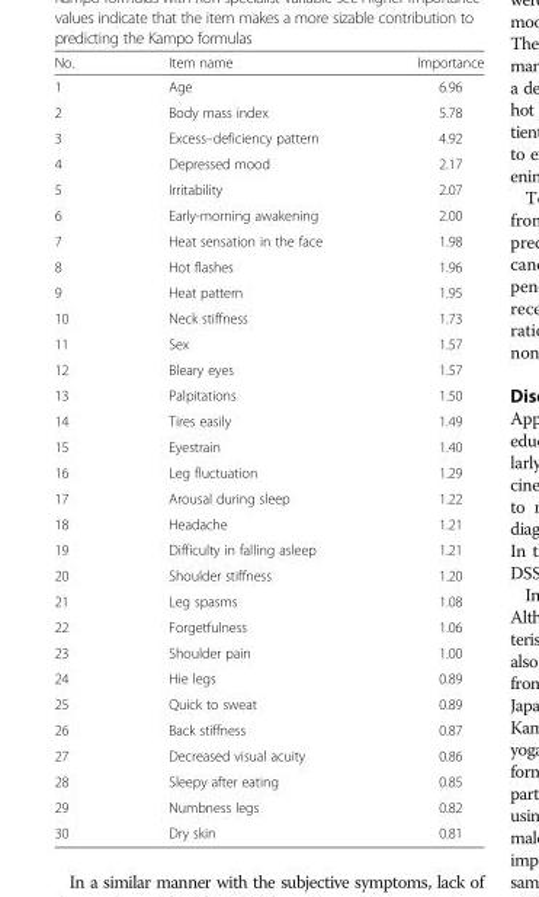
<table><thead><tr><td>No.</td><td>Item name</td><td>Importance</td></tr></thead><tbody><tr><td>1</td><td>Age</td><td>6.96</td></tr><tr><td>2</td><td>Body mass index</td><td>5.78</td></tr><tr><td>3</td><td>Excess–deficiency pattern</td><td>4.92</td></tr><tr><td>4</td><td>Depressed mood</td><td>2.17</td></tr><tr><td>5</td><td>Irritability</td><td>2.07</td></tr><tr><td>6</td><td>Early-morning awakening</td><td>2.00</td></tr><tr><td>7</td><td>Heat sensation in the face</td><td>1.98</td></tr><tr><td>8</td><td>Hot flashes</td><td>1.96</td></tr><tr><td>9</td><td>Heat pattern</td><td>1.95</td></tr><tr><td>10</td><td>Neck stiffness</td><td>1.73</td></tr><tr><td>11</td><td>Sex</td><td>1.57</td></tr><tr><td>12</td><td>Bleary eyes</td><td>1.57</td></tr><tr><td>13</td><td>Palpitations</td><td>1.50</td></tr><tr><td>14</td><td>Tires easily</td><td>1.49</td></tr><tr><td>15</td><td>Eyestrain</td><td>1.40</td></tr><tr><td>16</td><td>Leg fluctuation</td><td>1.29</td></tr><tr><td>17</td><td>Arousal during sleep</td><td>1.22</td></tr><tr><td>18</td><td>Headache</td><td>1.21</td></tr><tr><td>19</td><td>Difficulty in falling asleep</td><td>1.21</td></tr><tr><td>20</td><td>Shoulder stiffness</td><td>1.20</td></tr><tr><td>21</td><td>Leg spasms</td><td>1.08</td></tr><tr><td>22</td><td>Forgetfulness</td><td>1.06</td></tr><tr><td>23</td><td>Shoulder pain</td><td>1.00</td></tr><tr><td>24</td><td>Hie legs</td><td>0.89</td></tr><tr><td>25</td><td>Quick to sweat</td><td>0.89</td></tr><tr><td>26</td><td>Back stiffness</td><td>0.87</td></tr><tr><td>27</td><td>Decreased visual acuity</td><td>0.86</td></tr><tr><td>28</td><td>Sleepy after eating</td><td>0.85</td></tr><tr><td>29</td><td>Numbness legs</td><td>0.82</td></tr><tr><td>30</td><td>Dry skin</td><td>0.81</td></tr></tbody></table>